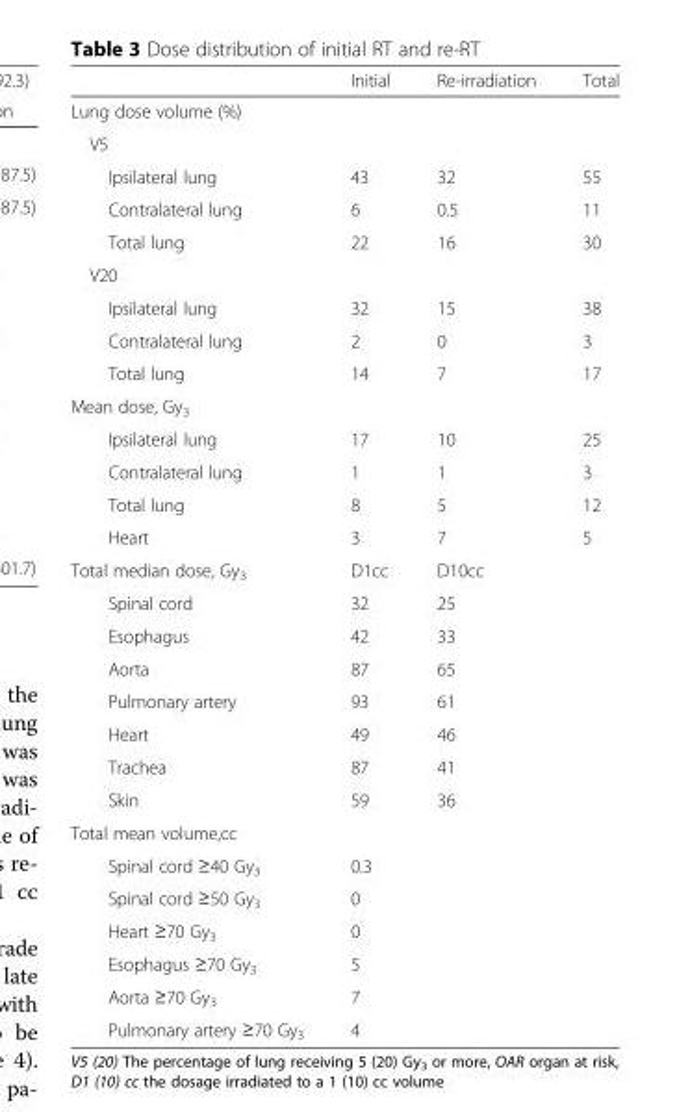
<table><thead><tr><td></td><td>Initial</td><td>Re-irradiation</td><td>Total</td></tr></thead><tbody><tr><td colspan="4">Lung dose volume (%)</td></tr><tr><td colspan="4">V5</td></tr><tr><td>Ipsilateral lung</td><td>43</td><td>32</td><td>55</td></tr><tr><td>Contralateral lung</td><td>6</td><td>0.5</td><td>11</td></tr><tr><td>Total lung</td><td>22</td><td>16</td><td>30</td></tr><tr><td colspan="4">V20</td></tr><tr><td>Ipsilateral lung</td><td>32</td><td>15</td><td>38</td></tr><tr><td>Contralateral lung</td><td>2</td><td>0</td><td>3</td></tr><tr><td>Total lung</td><td>14</td><td>7</td><td>17</td></tr><tr><td colspan="4">Mean dose, Gy<sub>3</sub></td></tr><tr><td>Ipsilateral lung</td><td>17</td><td>10</td><td>25</td></tr><tr><td>Contralateral lung</td><td>1</td><td>1</td><td>3</td></tr><tr><td>Total lung</td><td>8</td><td>5</td><td>12</td></tr><tr><td>Heart</td><td>3</td><td>7</td><td>5</td></tr><tr><td>Total median dose, Gy<sub>3</sub></td><td>D1cc</td><td>D10cc</td><td></td></tr><tr><td>Spinal cord</td><td>32</td><td>25</td><td></td></tr><tr><td>Esophagus</td><td>42</td><td>33</td><td></td></tr><tr><td>Aorta</td><td>87</td><td>65</td><td></td></tr><tr><td>Pulmonary artery</td><td>93</td><td>61</td><td></td></tr><tr><td>Heart</td><td>49</td><td>46</td><td></td></tr><tr><td>Trachea</td><td>87</td><td>41</td><td></td></tr><tr><td>Skin</td><td>59</td><td>36</td><td></td></tr><tr><td colspan="4">Total mean volume,cc</td></tr><tr><td>Spinal cord ≥40 Gy<sub>3</sub></td><td>0.3</td><td></td><td></td></tr><tr><td>Spinal cord ≥50 Gy<sub>3</sub></td><td>0</td><td></td><td></td></tr><tr><td>Heart ≥70 Gy<sub>3</sub></td><td>0</td><td></td><td></td></tr><tr><td>Esophagus ≥70 Gy<sub>3</sub></td><td>5</td><td></td><td></td></tr><tr><td>Aorta ≥70 Gy<sub>3</sub></td><td>7</td><td></td><td></td></tr><tr><td>Pulmonary artery ≥70 Gy<sub>3</sub></td><td>4</td><td></td><td></td></tr></tbody></table>